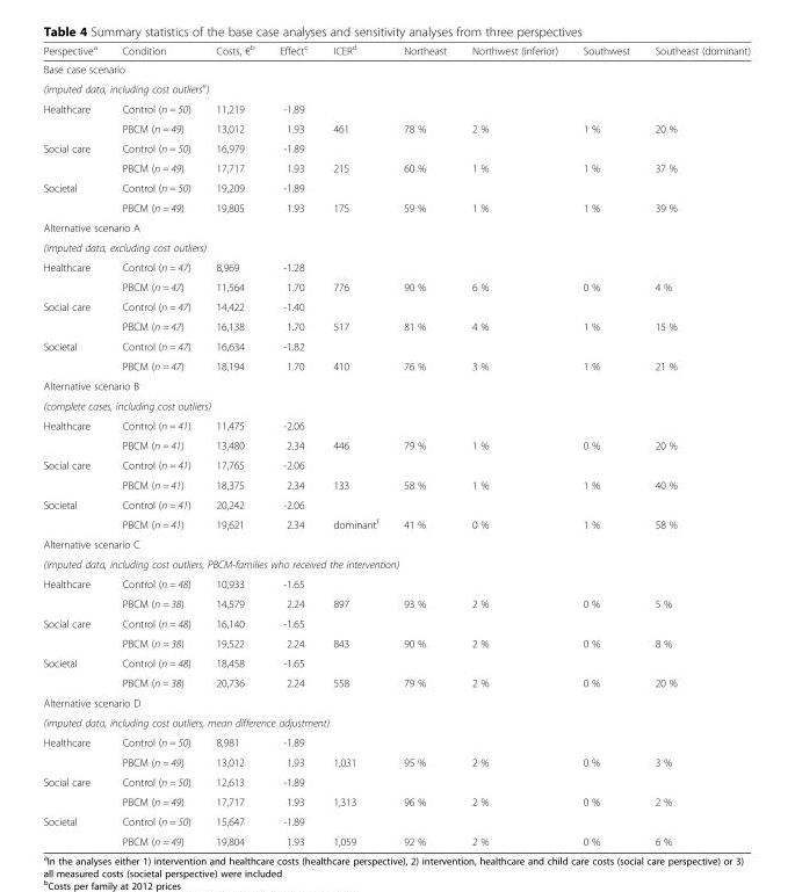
<table><thead><tr><td>Perspective<sup>a</sup></td><td>Condition</td><td>Costs, €<sup>b</sup></td><td>Effect<sup>c</sup></td><td>ICER<sup>d</sup></td><td>Northeast</td><td>Northwest (inferior)</td><td>Southwest</td><td>Southeast (dominant)</td></tr></thead><tbody><tr><td colspan="9">Base case scenario</td></tr><tr><td colspan="9">(imputed data, including cost outliers<sup>e</sup>)</td></tr><tr><td rowspan="2">Healthcare</td><td>Control (n = 50)</td><td>11,219</td><td>-1.89</td><td></td><td></td><td></td><td></td><td></td></tr><tr><td>PBCM (n = 49)</td><td>13,012</td><td>1.93</td><td>461</td><td>78 %</td><td>2 %</td><td>1 %</td><td>20 %</td></tr><tr><td rowspan="2">Social care</td><td>Control (n = 50)</td><td>16,979</td><td>-1.89</td><td></td><td></td><td></td><td></td><td></td></tr><tr><td>PBCM (n = 49)</td><td>17,717</td><td>1.93</td><td>215</td><td>60 %</td><td>1 %</td><td>1 %</td><td>37 %</td></tr><tr><td rowspan="2">Societal</td><td>Control (n = 50)</td><td>19,209</td><td>-1.89</td><td></td><td></td><td></td><td></td><td></td></tr><tr><td>PBCM (n = 49)</td><td>19,805</td><td>1.93</td><td>175</td><td>59 %</td><td>1 %</td><td>1 %</td><td>39 %</td></tr><tr><td colspan="9">Alternative scenario A</td></tr><tr><td colspan="9">(imputed data, excluding cost outliers)</td></tr><tr><td rowspan="2">Healthcare</td><td>Control (n = 47)</td><td>8,969</td><td>-1.28</td><td></td><td></td><td></td><td></td><td></td></tr><tr><td>PBCM (n = 47)</td><td>11,564</td><td>1.70</td><td>776</td><td>90 %</td><td>6 %</td><td>0 %</td><td>4 %</td></tr><tr><td rowspan="2">Social care</td><td>Control (n = 47)</td><td>14,422</td><td>-1.40</td><td></td><td></td><td></td><td></td><td></td></tr><tr><td>PBCM (n = 47)</td><td>16,138</td><td>1.70</td><td>517</td><td>81 %</td><td>4 %</td><td>1 %</td><td>15 %</td></tr><tr><td rowspan="2">Societal</td><td>Control (n = 47)</td><td>16,634</td><td>-1.82</td><td></td><td></td><td></td><td></td><td></td></tr><tr><td>PBCM (n = 47)</td><td>18,194</td><td>1.70</td><td>410</td><td>76 %</td><td>3 %</td><td>1 %</td><td>21 %</td></tr><tr><td colspan="9">Alternative scenario B</td></tr><tr><td colspan="9">(complete cases, including cost outliers)</td></tr><tr><td rowspan="2">Healthcare</td><td>Control (n = 41)</td><td>11,475</td><td>-2.06</td><td></td><td></td><td></td><td></td><td></td></tr><tr><td>PBCM (n = 41)</td><td>13,480</td><td>2.34</td><td>446</td><td>79 %</td><td>1 %</td><td>0 %</td><td>20 %</td></tr><tr><td rowspan="2">Social care</td><td>Control (n = 41)</td><td>17,765</td><td>-2.06</td><td></td><td></td><td></td><td></td><td></td></tr><tr><td>PBCM (n = 41)</td><td>18,375</td><td>2.34</td><td>133</td><td>58 %</td><td>1 %</td><td>1 %</td><td>40 %</td></tr><tr><td rowspan="2">Societal</td><td>Control (n = 41)</td><td>20,242</td><td>-2.06</td><td></td><td></td><td></td><td></td><td></td></tr><tr><td>PBCM (n = 41)</td><td>19,621</td><td>2.34</td><td>dominant<sup>f</sup></td><td>41 %</td><td>0 %</td><td>1 %</td><td>58 %</td></tr><tr><td colspan="9">Alternative scenario C</td></tr><tr><td colspan="9">(imputed data, including cost outliers, PBCM-families who received the intervention)</td></tr><tr><td rowspan="2">Healthcare</td><td>Control (n = 48)</td><td>10,933</td><td>-1.65</td><td></td><td></td><td></td><td></td><td></td></tr><tr><td>PBCM (n = 38)</td><td>14,579</td><td>2.24</td><td>897</td><td>93 %</td><td>2 %</td><td>0 %</td><td>5 %</td></tr><tr><td rowspan="2">Social care</td><td>Control (n = 48)</td><td>16,140</td><td>-1.65</td><td></td><td></td><td></td><td></td><td></td></tr><tr><td>PBCM (n = 38)</td><td>19,522</td><td>2.24</td><td>843</td><td>90 %</td><td>2 %</td><td>0 %</td><td>8 %</td></tr><tr><td rowspan="2">Societal</td><td>Control (n = 48)</td><td>18,458</td><td>-1.65</td><td></td><td></td><td></td><td></td><td></td></tr><tr><td>PBCM (n = 38)</td><td>20,736</td><td>2.24</td><td>558</td><td>79 %</td><td>2 %</td><td>0 %</td><td>20 %</td></tr><tr><td colspan="9">Alternative scenario D</td></tr><tr><td colspan="9">(imputed data, including cost outliers, mean difference adjustment)</td></tr><tr><td rowspan="2">Healthcare</td><td>Control (n = 50)</td><td>8,981</td><td>-1.89</td><td></td><td></td><td></td><td></td><td></td></tr><tr><td>PBCM (n = 49)</td><td>13,012</td><td>1.93</td><td>1,031</td><td>95 %</td><td>2 %</td><td>0 %</td><td>3 %</td></tr><tr><td rowspan="2">Social care</td><td>Control (n = 50)</td><td>12,613</td><td>-1.89</td><td></td><td></td><td></td><td></td><td></td></tr><tr><td>PBCM (n = 49)</td><td>17,717</td><td>1.93</td><td>1,313</td><td>96 %</td><td>2 %</td><td>0 %</td><td>2 %</td></tr><tr><td rowspan="2">Societal</td><td>Control (n = 50)</td><td>15,647</td><td>-1.89</td><td></td><td></td><td></td><td></td><td></td></tr><tr><td>PBCM (n = 49)</td><td>19,804</td><td>1.93</td><td>1,059</td><td>92 %</td><td>2 %</td><td>0 %</td><td>6 %</td></tr></tbody></table>